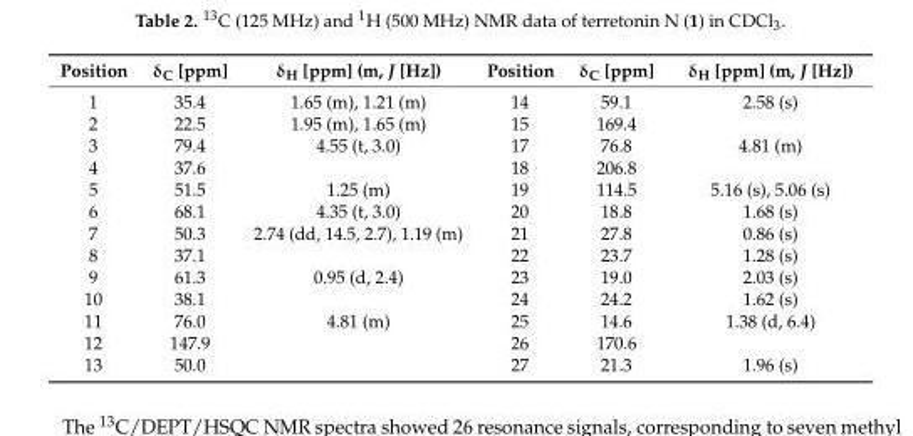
<table><thead><tr><td>Position</td><td>δ<sub>C</sub> [ppm]</td><td>δ<sub>H</sub> [ppm] (m, J [Hz])</td><td>Position</td><td>δ<sub>C</sub> [ppm]</td><td>δ<sub>H</sub> [ppm] (m, J [Hz])</td></tr></thead><tbody><tr><td>1</td><td>35.4</td><td>1.65 (m), 1.21 (m)</td><td>14</td><td>59.1</td><td>2.58 (s)</td></tr><tr><td>2</td><td>22.5</td><td>1.95 (m), 1.65 (m)</td><td>15</td><td>169.4</td><td></td></tr><tr><td>3</td><td>79.4</td><td>4.55 (t, 3.0)</td><td>17</td><td>76.8</td><td>4.81 (m)</td></tr><tr><td>4</td><td>37.6</td><td></td><td>18</td><td>206.8</td><td></td></tr><tr><td>5</td><td>51.5</td><td>1.25 (m)</td><td>19</td><td>114.5</td><td>5.16 (s), 5.06 (s)</td></tr><tr><td>6</td><td>68.1</td><td>4.35 (t, 3.0)</td><td>20</td><td>18.8</td><td>1.68 (s)</td></tr><tr><td>7</td><td>50.3</td><td>2.74 (dd, 14.5, 2.7), 1.19 (m)</td><td>21</td><td>27.8</td><td>0.86 (s)</td></tr><tr><td>8</td><td>37.1</td><td></td><td>22</td><td>23.7</td><td>1.28 (s)</td></tr><tr><td>9</td><td>61.3</td><td>0.95 (d, 2.4)</td><td>23</td><td>19.0</td><td>2.03 (s)</td></tr><tr><td>10</td><td>38.1</td><td></td><td>24</td><td>24.2</td><td>1.62 (s)</td></tr><tr><td>11</td><td>76.0</td><td>4.81 (m)</td><td>25</td><td>14.6</td><td>1.38 (d, 6.4)</td></tr><tr><td>12</td><td>147.9</td><td></td><td>26</td><td>170.6</td><td></td></tr><tr><td>13</td><td>50.0</td><td></td><td>27</td><td>21.3</td><td>1.96 (s)</td></tr></tbody></table>